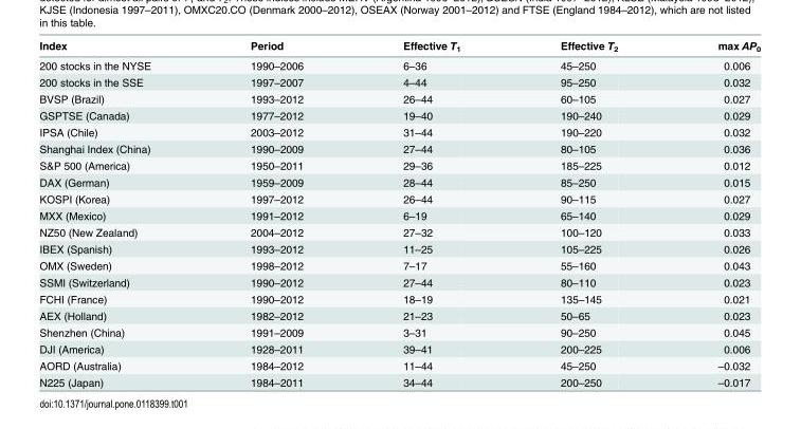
<table><thead><tr><td>Index</td><td>Period</td><td>Effective T<sub>1</sub></td><td>Effective T<sub>2</sub></td><td>max AP<sub>0</sub></td></tr></thead><tbody><tr><td>200 stocks in the NYSE</td><td>1990–2006</td><td>6–36</td><td>45–250</td><td>0.006</td></tr><tr><td>200 stocks in the SSE</td><td>1997–2007</td><td>4–44</td><td>95–250</td><td>0.032</td></tr><tr><td>BVSP (Brazil)</td><td>1993–2012</td><td>26–44</td><td>60–105</td><td>0.027</td></tr><tr><td>GSPTSE (Canada)</td><td>1977–2012</td><td>19–40</td><td>190–240</td><td>0.029</td></tr><tr><td>IPSA (Chile)</td><td>2003–2012</td><td>31–44</td><td>190–220</td><td>0.032</td></tr><tr><td>Shanghai Index (China)</td><td>1990–2009</td><td>27–44</td><td>80–105</td><td>0.036</td></tr><tr><td>S&amp;P 500 (America)</td><td>1950–2011</td><td>29–36</td><td>185–225</td><td>0.012</td></tr><tr><td>DAX (German)</td><td>1959–2009</td><td>28–44</td><td>85–250</td><td>0.015</td></tr><tr><td>KOSPI (Korea)</td><td>1997–2012</td><td>26–44</td><td>90–115</td><td>0.027</td></tr><tr><td>MXX (Mexico)</td><td>1991–2012</td><td>6–19</td><td>65–140</td><td>0.029</td></tr><tr><td>NZ50 (New Zealand)</td><td>2004–2012</td><td>27–32</td><td>100–120</td><td>0.033</td></tr><tr><td>IBEX (Spanish)</td><td>1993–2012</td><td>11–25</td><td>105–225</td><td>0.026</td></tr><tr><td>OMX (Sweden)</td><td>1998–2012</td><td>7–17</td><td>55–160</td><td>0.043</td></tr><tr><td>SSMI (Switzerland)</td><td>1990–2012</td><td>27–44</td><td>80–110</td><td>0.023</td></tr><tr><td>FCHI (France)</td><td>1990–2012</td><td>18–19</td><td>135–145</td><td>0.021</td></tr><tr><td>AEX (Holland)</td><td>1982–2012</td><td>21–23</td><td>50–65</td><td>0.023</td></tr><tr><td>Shenzhen (China)</td><td>1991–2009</td><td>3–31</td><td>90–250</td><td>0.045</td></tr><tr><td>DJI (America)</td><td>1928–2011</td><td>39–41</td><td>200–225</td><td>0.006</td></tr><tr><td>AORD (Australia)</td><td>1984–2012</td><td>11–44</td><td>45–250</td><td>–0.032</td></tr><tr><td>N225 (Japan)</td><td>1984–2011</td><td>34–44</td><td>200–250</td><td>–0.017</td></tr></tbody></table>